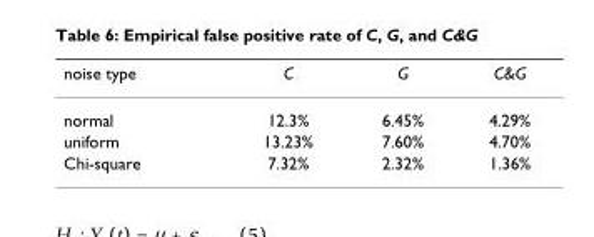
<table><thead><tr><td>noise type</td><td>C</td><td>G</td><td>C&amp;G</td></tr></thead><tbody><tr><td>normal</td><td>12.3%</td><td>6.45%</td><td>4.29%</td></tr><tr><td>uniform</td><td>13.23%</td><td>7.60%</td><td>4.70%</td></tr><tr><td>Chi-square</td><td>7.32%</td><td>2.32%</td><td>1.36%</td></tr></tbody></table>